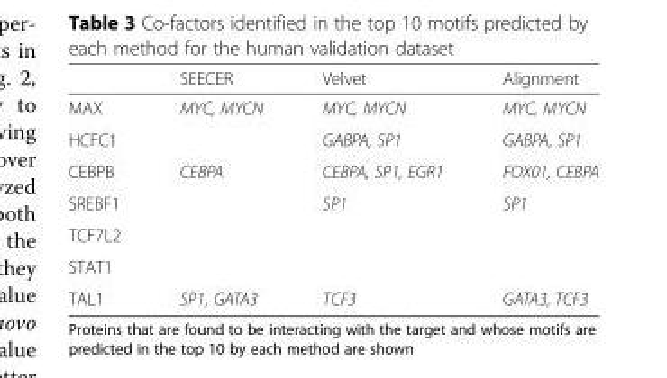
<table><thead><tr><td></td><td>SEECER</td><td>Velvet</td><td>Alignment</td></tr></thead><tbody><tr><td>MAX</td><td>MYC, MYCN</td><td>MYC, MYCN</td><td>MYC, MYCN</td></tr><tr><td>HCFC1</td><td></td><td>GABPA, SP1</td><td>GABPA, SP1</td></tr><tr><td>CEBPB</td><td>CEBPA</td><td>CEBPA, SP1, EGR1</td><td>FOX01, CEBPA</td></tr><tr><td>SREBF1</td><td></td><td>SP1</td><td>SP1</td></tr><tr><td colspan="4">TCF7L2</td></tr><tr><td colspan="4">STAT1</td></tr><tr><td>TAL1</td><td>SP1, GATA3</td><td>TCF3</td><td>GATA3, TCF3</td></tr></tbody></table>